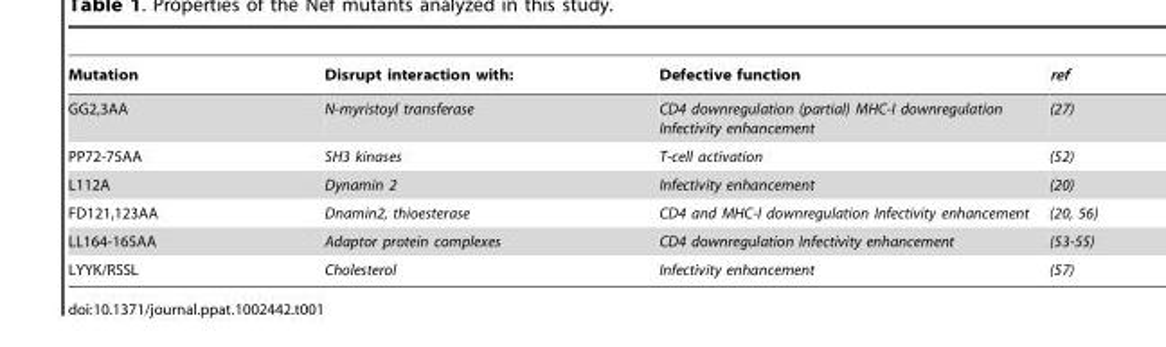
<table><thead><tr><td>Mutation</td><td>Disrupt interaction with:</td><td>Defective function</td><td>ref</td></tr></thead><tbody><tr><td>GG2,3AA</td><td>N-myristoyl transferase</td><td>CD4 downregulation (partial) MHC-I downregulation Infectivity enhancement</td><td>(27)</td></tr><tr><td>PP72-75AA</td><td>SH3 kinases</td><td>T-cell activation</td><td>(52)</td></tr><tr><td>L112A</td><td>Dynamin 2</td><td>Infectivity enhancement</td><td>(20)</td></tr><tr><td>FD121,123AA</td><td>Dnamin2, thioesterase</td><td>CD4 and MHC-I downregulation Infectivity enhancement</td><td>(20, 56)</td></tr><tr><td>LL164-165AA</td><td>Adaptor protein complexes</td><td>CD4 downregulation Infectivity enhancement</td><td>(53-55)</td></tr><tr><td>LYYK/RSSL</td><td>Cholesterol</td><td>Infectivity enhancement</td><td>(57)</td></tr></tbody></table>